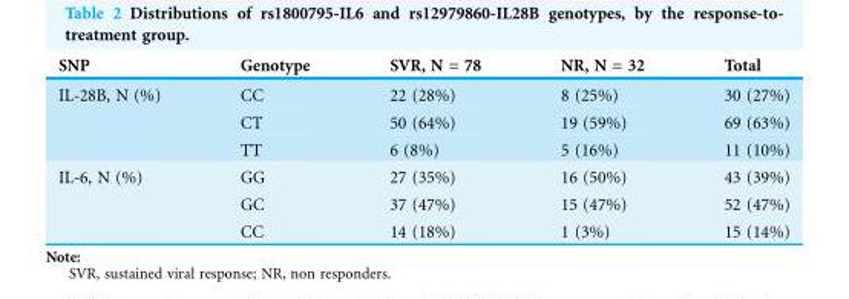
<table><thead><tr><td>SNP</td><td>Genotype</td><td>SVR, N = 78</td><td>NR, N = 32</td><td>Total</td></tr></thead><tbody><tr><td rowspan="3">IL-28B, N (%)</td><td>CC</td><td>22 (28%)</td><td>8 (25%)</td><td>30 (27%)</td></tr><tr><td>CT</td><td>50 (64%)</td><td>19 (59%)</td><td>69 (63%)</td></tr><tr><td>TT</td><td>6 (8%)</td><td>5 (16%)</td><td>11 (10%)</td></tr><tr><td rowspan="3">IL-6, N (%)</td><td>GG</td><td>27 (35%)</td><td>16 (50%)</td><td>43 (39%)</td></tr><tr><td>GC</td><td>37 (47%)</td><td>15 (47%)</td><td>52 (47%)</td></tr><tr><td>CC</td><td>14 (18%)</td><td>1 (3%)</td><td>15 (14%)</td></tr></tbody></table>